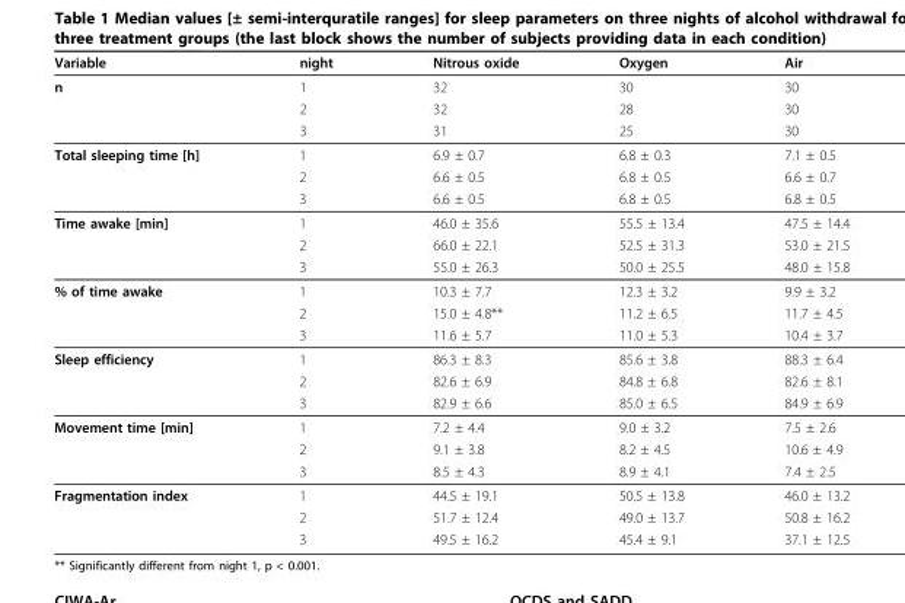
<table><thead><tr><td>Variable</td><td>night</td><td>Nitrous oxide</td><td>Oxygen</td><td>Air</td></tr></thead><tbody><tr><td rowspan="3">n</td><td>1</td><td>32</td><td>30</td><td>30</td></tr><tr><td>2</td><td>32</td><td>28</td><td>30</td></tr><tr><td>3</td><td>31</td><td>25</td><td>30</td></tr><tr><td rowspan="3">Total sleeping time [h]</td><td>1</td><td>6.9 ± 0.7</td><td>6.8 ± 0.3</td><td>7.1 ± 0.5</td></tr><tr><td>2</td><td>6.6 ± 0.5</td><td>6.8 ± 0.5</td><td>6.6 ± 0.7</td></tr><tr><td>3</td><td>6.6 ± 0.5</td><td>6.8 ± 0.5</td><td>6.8 ± 0.5</td></tr><tr><td rowspan="3">Time awake [min]</td><td>1</td><td>46.0 ± 35.6</td><td>55.5 ± 13.4</td><td>47.5 ± 14.4</td></tr><tr><td>2</td><td>66.0 ± 22.1</td><td>52.5 ± 31.3</td><td>53.0 ± 21.5</td></tr><tr><td>3</td><td>55.0 ± 26.3</td><td>50.0 ± 25.5</td><td>48.0 ± 15.8</td></tr><tr><td rowspan="3">% of time awake</td><td>1</td><td>10.3 ± 7.7</td><td>12.3 ± 3.2</td><td>9.9 ± 3.2</td></tr><tr><td>2</td><td>15.0 ± 4.8**</td><td>11.2 ± 6.5</td><td>11.7 ± 4.5</td></tr><tr><td>3</td><td>11.6 ± 5.7</td><td>11.0 ± 5.3</td><td>10.4 ± 3.7</td></tr><tr><td rowspan="3">Sleep efficiency</td><td>1</td><td>86.3 ± 8.3</td><td>85.6 ± 3.8</td><td>88.3 ± 6.4</td></tr><tr><td>2</td><td>82.6 ± 6.9</td><td>84.8 ± 6.8</td><td>82.6 ± 8.1</td></tr><tr><td>3</td><td>82.9 ± 6.6</td><td>85.0 ± 6.5</td><td>84.9 ± 6.9</td></tr><tr><td rowspan="3">Movement time [min]</td><td>1</td><td>7.2 ± 4.4</td><td>9.0 ± 3.2</td><td>7.5 ± 2.6</td></tr><tr><td>2</td><td>9.1 ± 3.8</td><td>8.2 ± 4.5</td><td>10.6 ± 4.9</td></tr><tr><td>3</td><td>8.5 ± 4.3</td><td>8.9 ± 4.1</td><td>7.4 ± 2.5</td></tr><tr><td rowspan="3">Fragmentation index</td><td>1</td><td>44.5 ± 19.1</td><td>50.5 ± 13.8</td><td>46.0 ± 13.2</td></tr><tr><td>2</td><td>51.7 ± 12.4</td><td>49.0 ± 13.7</td><td>50.8 ± 16.2</td></tr><tr><td>3</td><td>49.5 ± 16.2</td><td>45.4 ± 9.1</td><td>37.1 ± 12.5</td></tr></tbody></table>